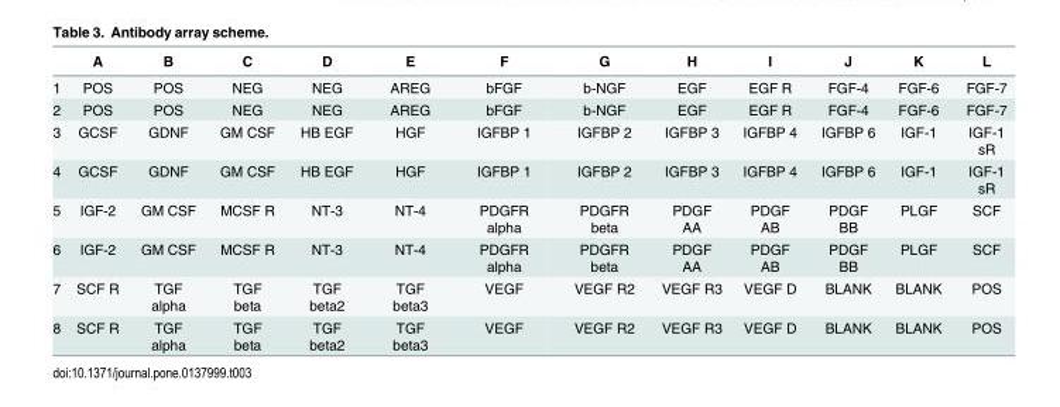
<table><thead><tr><td></td><td>A</td><td>B</td><td>C</td><td>D</td><td>E</td><td>F</td><td>G</td><td>H</td><td>I</td><td>J</td><td>K</td><td>L</td></tr></thead><tbody><tr><td>1</td><td>POS</td><td>POS</td><td>NEG</td><td>NEG</td><td>AREG</td><td>bFGF</td><td>b-NGF</td><td>EGF</td><td>EGF R</td><td>FGF-4</td><td>FGF-6</td><td>FGF-7</td></tr><tr><td>2</td><td>POS</td><td>POS</td><td>NEG</td><td>NEG</td><td>AREG</td><td>bFGF</td><td>b-NGF</td><td>EGF</td><td>EGF R</td><td>FGF-4</td><td>FGF-6</td><td>FGF-7</td></tr><tr><td>3</td><td>GCSF</td><td>GDNF</td><td>GM CSF</td><td>HB EGF</td><td>HGF</td><td>IGFBP 1</td><td>IGFBP 2</td><td>IGFBP 3</td><td>IGFBP 4</td><td>IGFBP 6</td><td>IGF-1</td><td>IGF-1 sR</td></tr><tr><td>4</td><td>GCSF</td><td>GDNF</td><td>GM CSF</td><td>HB EGF</td><td>HGF</td><td>IGFBP 1</td><td>IGFBP 2</td><td>IGFBP 3</td><td>IGFBP 4</td><td>IGFBP 6</td><td>IGF-1</td><td>IGF-1 sR</td></tr><tr><td>5</td><td>IGF-2</td><td>GM CSF</td><td>MCSF R</td><td>NT-3</td><td>NT-4</td><td>PDGFR alpha</td><td>PDGFR beta</td><td>PDGF AA</td><td>PDGF AB</td><td>PDGF BB</td><td>PLGF</td><td>SCF</td></tr><tr><td>6</td><td>IGF-2</td><td>GM CSF</td><td>MCSF R</td><td>NT-3</td><td>NT-4</td><td>PDGFR alpha</td><td>PDGFR beta</td><td>PDGF AA</td><td>PDGF AB</td><td>PDGF BB</td><td>PLGF</td><td>SCF</td></tr><tr><td>7</td><td>SCF R</td><td>TGF alpha</td><td>TGF beta</td><td>TGF beta2</td><td>TGF beta3</td><td>VEGF</td><td>VEGF R2</td><td>VEGF R3</td><td>VEGF D</td><td>BLANK</td><td>BLANK</td><td>POS</td></tr><tr><td>8</td><td>SCF R</td><td>TGF alpha</td><td>TGF beta</td><td>TGF beta2</td><td>TGF beta3</td><td>VEGF</td><td>VEGF R2</td><td>VEGF R3</td><td>VEGF D</td><td>BLANK</td><td>BLANK</td><td>POS</td></tr></tbody></table>